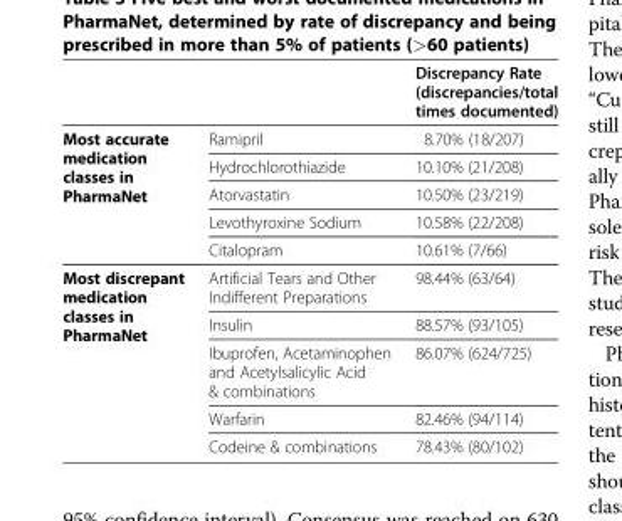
<table><thead><tr><td></td><td></td><td>Discrepancy Rate (discrepancies/total times documented)</td></tr></thead><tbody><tr><td rowspan="5">Most accurate medication classes in PharmaNet</td><td>Ramipril</td><td>8.70% (18/207)</td></tr><tr><td>Hydrochlorothiazide</td><td>10.10% (21/208)</td></tr><tr><td>Atorvastatin</td><td>10.50% (23/219)</td></tr><tr><td>Levothyroxine Sodium</td><td>10.58% (22/208)</td></tr><tr><td>Citalopram</td><td>10.61% (7/66)</td></tr><tr><td rowspan="5">Most discrepant medication classes in PharmaNet</td><td>Artificial Tears and Other Indifferent Preparations</td><td>98.44% (63/64)</td></tr><tr><td>Insulin</td><td>88.57% (93/105)</td></tr><tr><td>Ibuprofen, Acetaminophen and Acetylsalicylic Acid &amp; combinations</td><td>86.07% (624/725)</td></tr><tr><td>Warfarin</td><td>82.46% (94/114)</td></tr><tr><td>Codeine &amp; combinations</td><td>78.43% (80/102)</td></tr></tbody></table>